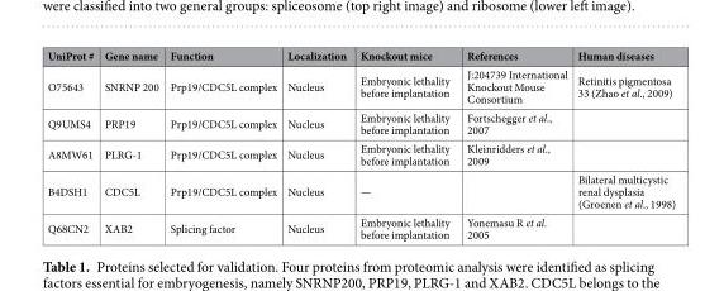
<table><thead><tr><td>UniProt #</td><td>Gene name</td><td>Function</td><td>Localization</td><td>Knockout mice</td><td>References</td><td>Human diseases</td></tr></thead><tbody><tr><td>O75643</td><td>SNRNP 200</td><td>Prp19/CDC5L complex</td><td>Nucleus</td><td>Embryonic lethality before implantation</td><td>J:204739 International Knockout Mouse Consortium</td><td>Retinitis pigmentosa 33 (Zhao et al., 2009)</td></tr><tr><td>Q9UMS4</td><td>PRP19</td><td>Prp19/CDC5L complex</td><td>Nucleus</td><td>Embryonic lethality before implantation</td><td>Fortschegger et al., 2007</td><td></td></tr><tr><td>A8MW61</td><td>PLRG-1</td><td>Prp19/CDC5L complex</td><td>Nucleus</td><td>Embryonic lethality before implantation</td><td>Kleinridders et al., 2009</td><td></td></tr><tr><td>B4DSH1</td><td>CDC5L</td><td>Prp19/CDC5L complex</td><td>Nucleus</td><td>—</td><td></td><td>Bilateral multicystic renal dysplasia (Groenen et al., 1998)</td></tr><tr><td>Q68CN2</td><td>XAB2</td><td>Splicing factor</td><td>Nucleus</td><td>Embryonic lethality before implantation</td><td>Yonemasu R et al. 2005</td><td></td></tr></tbody></table>